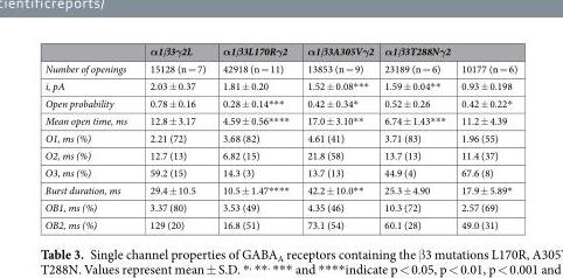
<table><thead><tr><td rowspan="2">Number of openings</td><td rowspan="2">α1β3γ2L 15128 (n = 7)</td><td rowspan="2">α1β3L170Rγ2 42918 (n = 11)</td><td rowspan="2">α1β3A305Vγ2 13853 (n = 9)</td><td colspan="2">α1β3T288Nγ2</td></tr><tr><td>23189 (n = 6)</td><td>10177 (n = 6)</td></tr></thead><tbody><tr><td>i, pA</td><td>2.03 ± 0.37</td><td>1.81 ± 0.20</td><td>1.52 ± 0.08***</td><td>1.59 ± 0.04**</td><td>0.93 ± 0.198</td></tr><tr><td>Open probability</td><td>0.78 ± 0.16</td><td>0.28 ± 0.14***</td><td>0.42 ± 0.34*</td><td>0.52 ± 0.26</td><td>0.42 ± 0.22*</td></tr><tr><td>Mean open time, ms</td><td>12.8 ± 3.17</td><td>4.59 ± 0.56****</td><td>17.0 ± 3.10**</td><td>6.74 ± 1.43***</td><td>11.2 ± 4.39</td></tr><tr><td>O1, ms (%)</td><td>2.21 (72)</td><td>3.68 (82)</td><td>4.61 (41)</td><td>3.71 (83)</td><td>1.96 (55)</td></tr><tr><td>O2, ms (%)</td><td>12.7 (13)</td><td>6.82 (15)</td><td>21.8 (58)</td><td>13.7 (13)</td><td>11.4 (37)</td></tr><tr><td>O3, ms (%)</td><td>59.2 (15)</td><td>14.3 (3)</td><td>13.7 (13)</td><td>44.9 (4)</td><td>67.6 (8)</td></tr><tr><td>Burst duration, ms</td><td>29.4 ± 10.5</td><td>10.5 ± 1.47****</td><td>42.2 ± 10.0**</td><td>25.3 ± 4.90</td><td>17.9 ± 5.89*</td></tr><tr><td>OB1, ms (%)</td><td>3.37 (80)</td><td>3.53 (49)</td><td>4.35 (46)</td><td>10.3 (72)</td><td>2.57 (69)</td></tr><tr><td>OB2, ms (%)</td><td>129 (20)</td><td>16.8 (51)</td><td>73.1 (54)</td><td>60.1 (28)</td><td>49.0 (31)</td></tr></tbody></table>